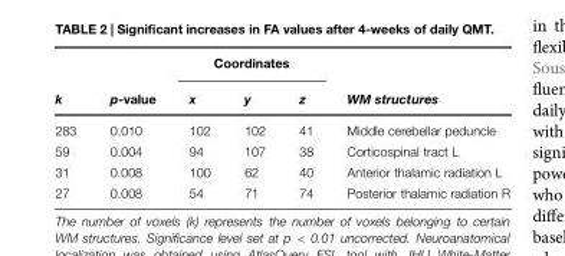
<table><thead><tr><td rowspan="2">k</td><td rowspan="2">p-value</td><td colspan="3">Coordinates</td><td rowspan="2">WM structures</td></tr><tr><td>x</td><td>y</td><td>z</td></tr></thead><tbody><tr><td>283</td><td>0.010</td><td>102</td><td>102</td><td>41</td><td>Middle cerebellar peduncle</td></tr><tr><td>59</td><td>0.004</td><td>94</td><td>107</td><td>38</td><td>Corticospinal tract L</td></tr><tr><td>31</td><td>0.008</td><td>100</td><td>62</td><td>40</td><td>Anterior thalamic radiation L</td></tr><tr><td>27</td><td>0.008</td><td>54</td><td>71</td><td>74</td><td>Posterior thalamic radiation R</td></tr></tbody></table>